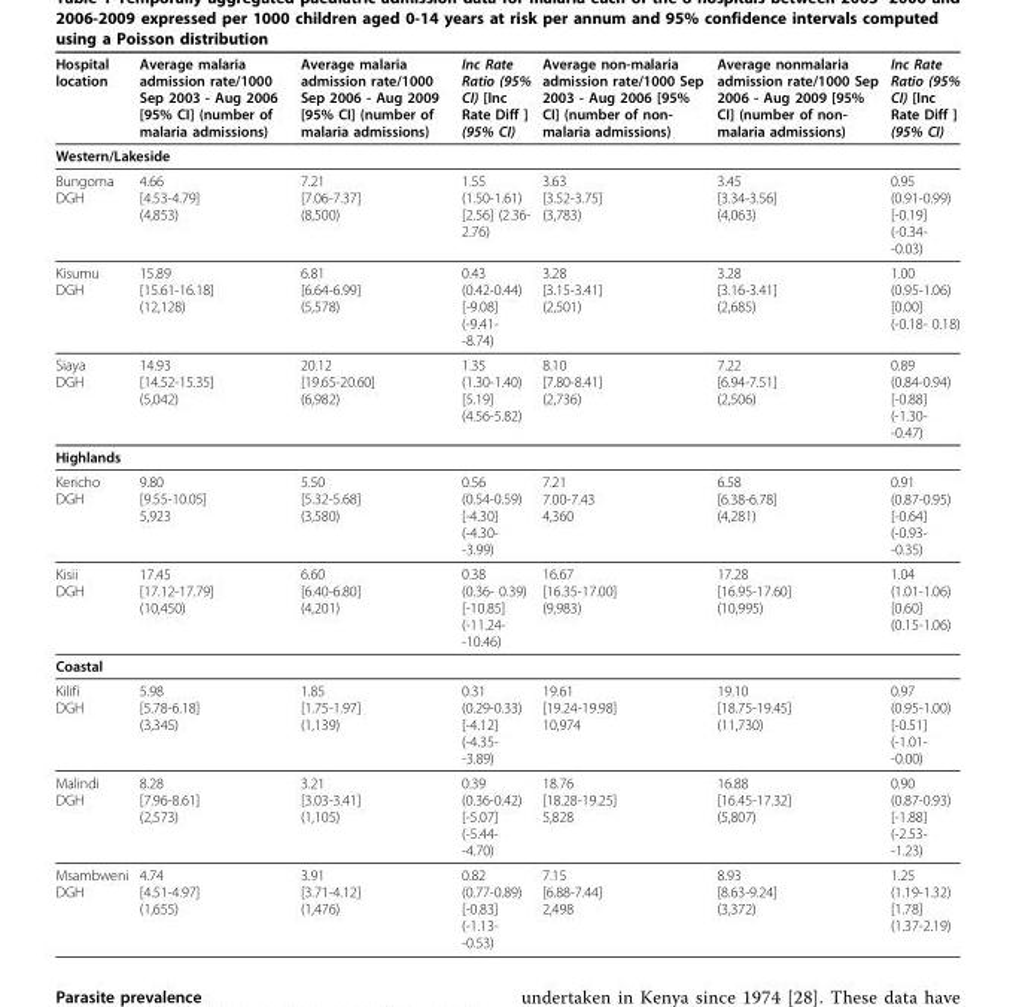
<table><thead><tr><td>Hospital location</td><td>Average malaria admission rate/1000 Sep 2003 - Aug 2006 [95% CI] (number of malaria admissions)</td><td>Average malaria admission rate/1000 Sep 2006 - Aug 2009 [95% CI] (number of malaria admissions)</td><td>Inc Rate Ratio (95% CI) [Inc Rate Diff ] (95% CI)</td><td>Average non-malaria admission rate/1000 Sep 2003 - Aug 2006 [95% CI] (number of non- malaria admissions)</td><td>Average nonmalaria admission rate/1000 Sep 2006 - Aug 2009 [95% CI] (number of non- malaria admissions)</td><td>Inc Rate Ratio (95% CI) [Inc Rate Diff ] (95% CI)</td></tr></thead><tbody><tr><td colspan="7">Western/Lakeside</td></tr><tr><td>Bungoma DGH</td><td>4.66 [4.53-4.79] (4,853)</td><td>7.21 [7.06-7.37] (8,500)</td><td>1.55 (1.50-1.61) [2.56] (2.36- 2.76)</td><td>3.63 [3.52-3.75] (3,783)</td><td>3.45 [3.34-3.56] (4,063)</td><td>0.95 (0.91-0.99) [-0.19] (-0.34- -0.03)</td></tr><tr><td>Kisumu DGH</td><td>15.89 [15.61-16.18] (12,128)</td><td>6.81 [6.64-6.99] (5,578)</td><td>0.43 (0.42-0.44) [-9.08] (-9.41- -8.74)</td><td>3.28 [3.15-3.41] (2,501)</td><td>3.28 [3.16-3.41] (2,685)</td><td>1.00 (0.95-1.06) [0.00] (-0.18- 0.18)</td></tr><tr><td>Siaya DGH</td><td>14.93 [14.52-15.35] (5,042)</td><td>20.12 [19.65-20.60] (6,982)</td><td>1.35 (1.30-1.40) [5.19] (4.56-5.82)</td><td>8.10 [7.80-8.41] (2,736)</td><td>7.22 [6.94-7.51] (2,506)</td><td>0.89 (0.84-0.94) [-0.88] (-1.30- -0.47)</td></tr><tr><td colspan="7">Highlands</td></tr><tr><td>Kericho DGH</td><td>9.80 [9.55-10.05] 5,923</td><td>5.50 [5.32-5.68] (3,580)</td><td>0.56 (0.54-0.59) [-4.30] (-4.30- -3.99)</td><td>7.21 7.00-7.43 4,360</td><td>6.58 [6.38-6.78] (4,281)</td><td>0.91 (0.87-0.95) [-0.64] (-0.93- -0.35)</td></tr><tr><td>Kisii DGH</td><td>17.45 [17.12-17.79] (10,450)</td><td>6.60 [6.40-6.80] (4,201)</td><td>0.38 (0.36- 0.39) [-10.85] (-11.24- -10.46)</td><td>16.67 [16.35-17.00] (9,983)</td><td>17.28 [16.95-17.60] (10,995)</td><td>1.04 (1.01-1.06) [0.60] (0.15-1.06)</td></tr><tr><td colspan="7">Coastal</td></tr><tr><td>Kilifi DGH</td><td>5.98 [5.78-6.18] (3,345)</td><td>1.85 [1.75-1.97] (1,139)</td><td>0.31 (0.29-0.33) [-4.12] (-4.35- -3.89)</td><td>19.61 [19.24-19.98] 10,974</td><td>19.10 [18.75-19.45] (11,730)</td><td>0.97 (0.95-1.00) [-0.51] (-1.01- -0.00)</td></tr><tr><td>Malindi DGH</td><td>8.28 [7.96-8.61] (2,573)</td><td>3.21 [3.03-3.41] (1,105)</td><td>0.39 (0.36-0.42) [-5.07] (-5.44- -4.70)</td><td>18.76 [18.28-19.25] 5,828</td><td>16.88 [16.45-17.32] (5,807)</td><td>0.90 (0.87-0.93) [-1.88] (-2.53- -1.23)</td></tr><tr><td>Msambweni DGH</td><td>4.74 [4.51-4.97] (1,655)</td><td>3.91 [3.71-4.12] (1,476)</td><td>0.82 (0.77-0.89) [-0.83] (-1.13- -0.53)</td><td>7.15 [6.88-7.44] 2,498</td><td>8.93 [8.63-9.24] (3,372)</td><td>1.25 (1.19-1.32) [1.78] (1.37-2.19)</td></tr></tbody></table>